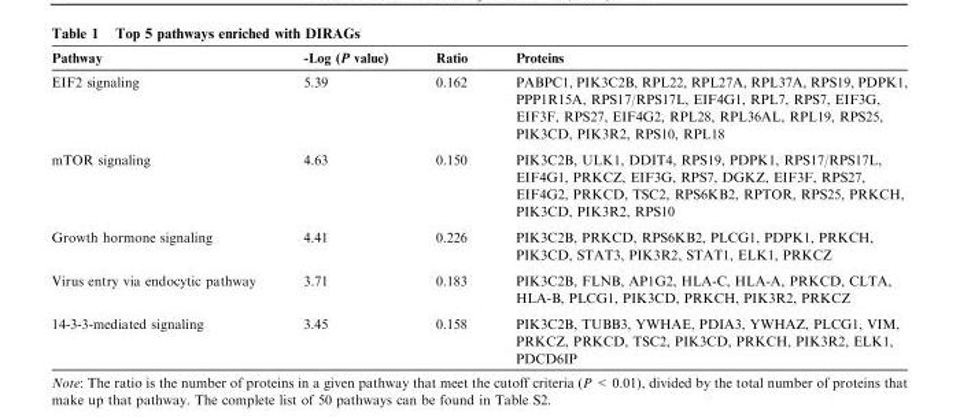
<table><thead><tr><td>Pathway</td><td>-Log (P value)</td><td>Ratio</td><td>Proteins</td></tr></thead><tbody><tr><td>EIF2 signaling</td><td>5.39</td><td>0.162</td><td>PABPC1, PIK3C2B, RPL22, RPL27A, RPL37A, RPS19, PDPK1, PPP1R15A, RPS17/RPS17L, EIF4G1, RPL7, RPS7, EIF3G, EIF3F, RPS27, EIF4G2, RPL28, RPL36AL, RPL19, RPS25, PIK3CD, PIK3R2, RPS10, RPL18</td></tr><tr><td>mTOR signaling</td><td>4.63</td><td>0.150</td><td>PIK3C2B, ULK1, DDIT4, RPS19, PDPK1, RPS17/RPS17L, EIF4G1, PRKCZ, EIF3G, RPS7, DGKZ, EIF3F, RPS27, EIF4G2, PRKCD, TSC2, RPS6KB2, RPTOR, RPS25, PRKCH, PIK3CD, PIK3R2, RPS10</td></tr><tr><td>Growth hormone signaling</td><td>4.41</td><td>0.226</td><td>PIK3C2B, PRKCD, RPS6KB2, PLCG1, PDPK1, PRKCH, PIK3CD, STAT3, PIK3R2, STAT1, ELK1, PRKCZ</td></tr><tr><td>Virus entry via endocytic pathway</td><td>3.71</td><td>0.183</td><td>PIK3C2B, FLNB, AP1G2, HLA-C, HLA-A, PRKCD, CLTA, HLA-B, PLCG1, PIK3CD, PRKCH, PIK3R2, PRKCZ</td></tr><tr><td>14-3-3-mediated signaling</td><td>3.45</td><td>0.158</td><td>PIK3C2B, TUBB3, YWHAE, PDIA3, YWHAZ, PLCG1, VIM, PRKCZ, PRKCD, TSC2, PIK3CD, PRKCH, PIK3R2, ELK1, PDCD6IP</td></tr></tbody></table>